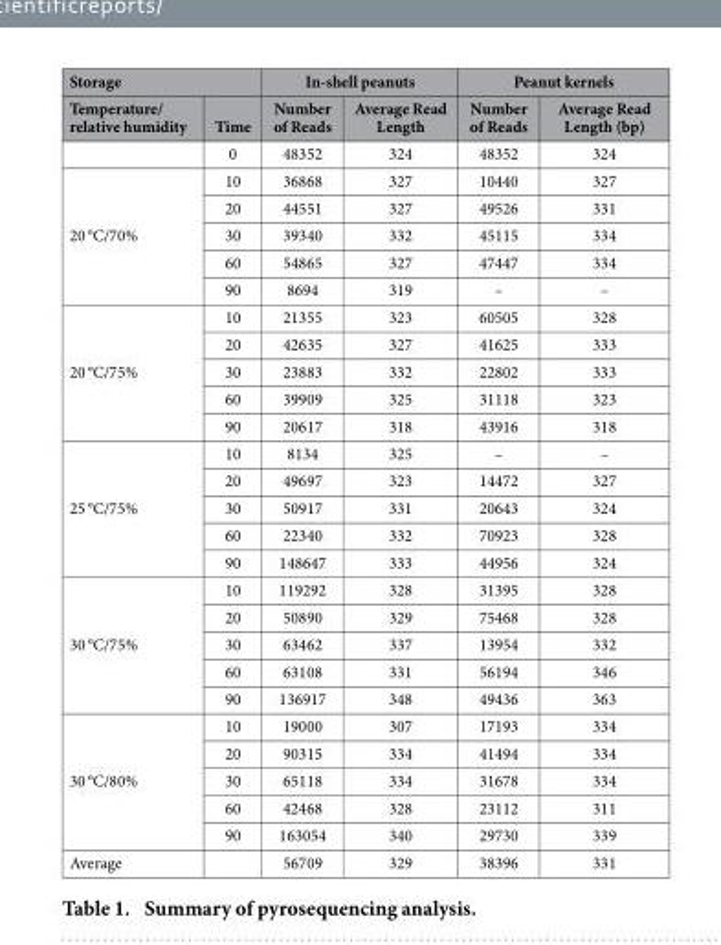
<table><thead><tr><td colspan="2">Storage</td><td colspan="2">In-shell peanuts</td><td colspan="2">Peanut kernels</td></tr><tr><td>Temperature/ relative humidity</td><td>Time</td><td>Number of Reads</td><td>Average Read Length</td><td>Number of Reads</td><td>Average Read Length (bp)</td></tr></thead><tbody><tr><td></td><td>0</td><td>48352</td><td>324</td><td>48352</td><td>324</td></tr><tr><td rowspan="5">20 °C/70%</td><td>10</td><td>36868</td><td>327</td><td>10440</td><td>327</td></tr><tr><td>20</td><td>44551</td><td>327</td><td>49526</td><td>331</td></tr><tr><td>30</td><td>39340</td><td>332</td><td>45115</td><td>334</td></tr><tr><td>60</td><td>54865</td><td>327</td><td>47447</td><td>334</td></tr><tr><td>90</td><td>8694</td><td>319</td><td>–</td><td>–</td></tr><tr><td rowspan="5">20 °C/75%</td><td>10</td><td>21355</td><td>323</td><td>60505</td><td>328</td></tr><tr><td>20</td><td>42635</td><td>327</td><td>41625</td><td>333</td></tr><tr><td>30</td><td>23883</td><td>332</td><td>22802</td><td>333</td></tr><tr><td>60</td><td>39909</td><td>325</td><td>31118</td><td>323</td></tr><tr><td>90</td><td>20617</td><td>318</td><td>43916</td><td>318</td></tr><tr><td rowspan="5">25 °C/75%</td><td>10</td><td>8134</td><td>325</td><td>–</td><td>–</td></tr><tr><td>20</td><td>49697</td><td>323</td><td>14472</td><td>327</td></tr><tr><td>30</td><td>50917</td><td>331</td><td>20643</td><td>324</td></tr><tr><td>60</td><td>22340</td><td>332</td><td>70923</td><td>328</td></tr><tr><td>90</td><td>148647</td><td>333</td><td>44956</td><td>324</td></tr><tr><td rowspan="5">30 °C/75%</td><td>10</td><td>119292</td><td>328</td><td>31395</td><td>328</td></tr><tr><td>20</td><td>50890</td><td>329</td><td>75468</td><td>328</td></tr><tr><td>30</td><td>63462</td><td>337</td><td>13954</td><td>332</td></tr><tr><td>60</td><td>63108</td><td>331</td><td>56194</td><td>346</td></tr><tr><td>90</td><td>136917</td><td>348</td><td>49436</td><td>363</td></tr><tr><td rowspan="5">30 °C/80%</td><td>10</td><td>19000</td><td>307</td><td>17193</td><td>334</td></tr><tr><td>20</td><td>90315</td><td>334</td><td>41494</td><td>334</td></tr><tr><td>30</td><td>65118</td><td>334</td><td>31678</td><td>334</td></tr><tr><td>60</td><td>42468</td><td>328</td><td>23112</td><td>311</td></tr><tr><td>90</td><td>163054</td><td>340</td><td>29730</td><td>339</td></tr><tr><td>Average</td><td></td><td>56709</td><td>329</td><td>38396</td><td>331</td></tr></tbody></table>